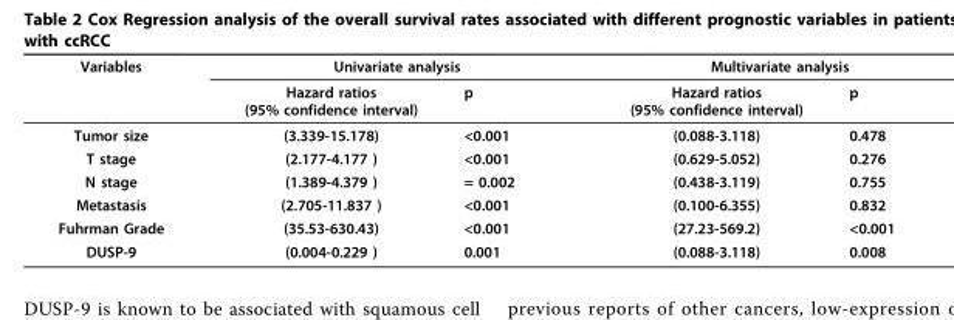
<table><thead><tr><td rowspan="2">Variables</td><td colspan="2">Univariate analysis</td><td colspan="2">Multivariate analysis</td></tr><tr><td>Hazard ratios (95% confidence interval)</td><td>p</td><td>Hazard ratios (95% confidence interval)</td><td>p</td></tr></thead><tbody><tr><td>Tumor size</td><td>(3.339-15.178)</td><td>&lt;0.001</td><td>(0.088-3.118)</td><td>0.478</td></tr><tr><td>T stage</td><td>(2.177-4.177 )</td><td>&lt;0.001</td><td>(0.629-5.052)</td><td>0.276</td></tr><tr><td>N stage</td><td>(1.389-4.379 )</td><td>= 0.002</td><td>(0.438-3.119)</td><td>0.755</td></tr><tr><td>Metastasis</td><td>(2.705-11.837 )</td><td>&lt;0.001</td><td>(0.100-6.355)</td><td>0.832</td></tr><tr><td>Fuhrman Grade</td><td>(35.53-630.43)</td><td>&lt;0.001</td><td>(27.23-569.2)</td><td>&lt;0.001</td></tr><tr><td>DUSP-9</td><td>(0.004-0.229 )</td><td>0.001</td><td>(0.088-3.118)</td><td>0.008</td></tr></tbody></table>